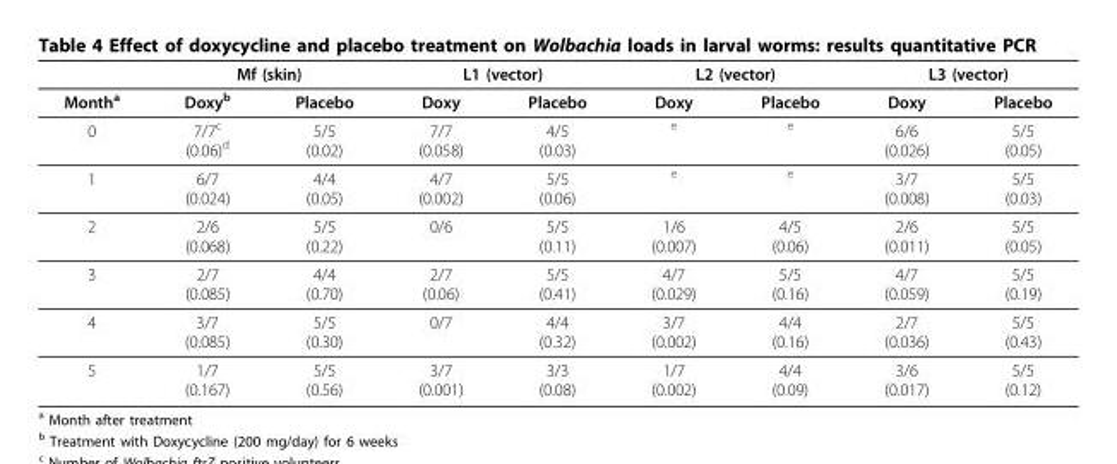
<table><thead><tr><td rowspan="2">Month<sup>a</sup></td><td colspan="2">Mf (skin)</td><td colspan="2">L1 (vector)</td><td colspan="2">L2 (vector)</td><td colspan="2">L3 (vector)</td></tr><tr><td>Doxy<sup>b</sup></td><td>Placebo</td><td>Doxy</td><td>Placebo</td><td>Doxy</td><td>Placebo</td><td>Doxy</td><td>Placebo</td></tr></thead><tbody><tr><td>0</td><td>7/7<sup>c</sup> (0.06)<sup>d</sup></td><td>5/5 (0.02)</td><td>7/7 (0.058)</td><td>4/5 (0.03)</td><td><sup>e</sup></td><td><sup>e</sup></td><td>6/6 (0.026)</td><td>5/5 (0.05)</td></tr><tr><td>1</td><td>6/7 (0.024)</td><td>4/4 (0.05)</td><td>4/7 (0.002)</td><td>5/5 (0.06)</td><td><sup>e</sup></td><td><sup>e</sup></td><td>3/7 (0.008)</td><td>5/5 (0.03)</td></tr><tr><td>2</td><td>2/6 (0.068)</td><td>5/5 (0.22)</td><td>0/6</td><td>5/5 (0.11)</td><td>1/6 (0.007)</td><td>4/5 (0.06)</td><td>2/6 (0.011)</td><td>5/5 (0.05)</td></tr><tr><td>3</td><td>2/7 (0.085)</td><td>4/4 (0.70)</td><td>2/7 (0.06)</td><td>5/5 (0.41)</td><td>4/7 (0.029)</td><td>5/5 (0.16)</td><td>4/7 (0.059)</td><td>5/5 (0.19)</td></tr><tr><td>4</td><td>3/7 (0.085)</td><td>5/5 (0.30)</td><td>0/7</td><td>4/4 (0.32)</td><td>3/7 (0.002)</td><td>4/4 (0.16)</td><td>2/7 (0.036)</td><td>5/5 (0.43)</td></tr><tr><td>5</td><td>1/7 (0.167)</td><td>5/5 (0.56)</td><td>3/7 (0.001)</td><td>3/3 (0.08)</td><td>1/7 (0.002)</td><td>4/4 (0.09)</td><td>3/6 (0.017)</td><td>5/5 (0.12)</td></tr></tbody></table>